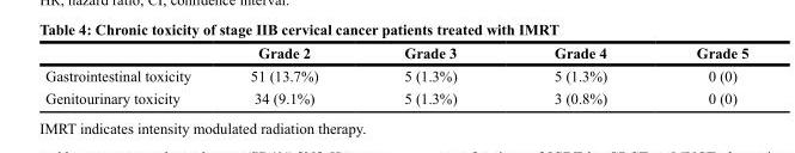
<table><thead><tr><td></td><td>Grade 2</td><td>Grade 3</td><td>Grade 4</td><td>Grade 5</td></tr></thead><tbody><tr><td>Gastrointestinal toxicity</td><td>51 (13.7%)</td><td>5 (1.3%)</td><td>5 (1.3%)</td><td>0 (0)</td></tr><tr><td>Genitourinary toxicity</td><td>34 (9.1%)</td><td>5 (1.3%)</td><td>3 (0.8%)</td><td>0 (0)</td></tr></tbody></table>